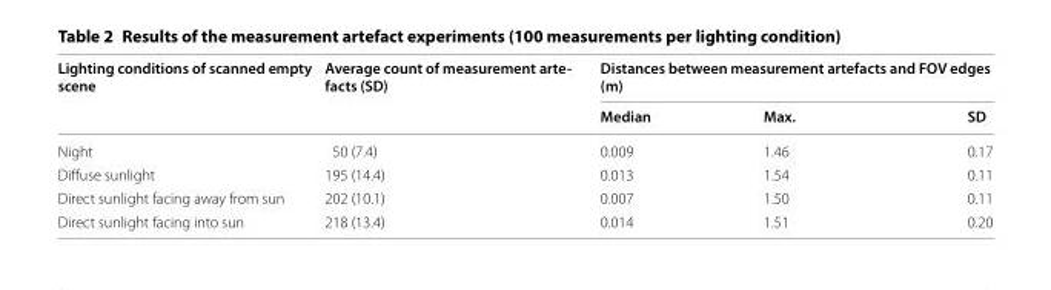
<table><thead><tr><td rowspan="2">Lighting conditions of scanned empty scene</td><td rowspan="2">Average count of measurement arte- facts (SD)</td><td colspan="3">Distances between measurement artefacts and FOV edges (m)</td></tr><tr><td>Median</td><td>Max.</td><td>SD</td></tr></thead><tbody><tr><td>Night</td><td>50 (7.4)</td><td>0.009</td><td>1.46</td><td>0.17</td></tr><tr><td>Diffuse sunlight</td><td>195 (14.4)</td><td>0.013</td><td>1.54</td><td>0.11</td></tr><tr><td>Direct sunlight facing away from sun</td><td>202 (10.1)</td><td>0.007</td><td>1.50</td><td>0.11</td></tr><tr><td>Direct sunlight facing into sun</td><td>218 (13.4)</td><td>0.014</td><td>1.51</td><td>0.20</td></tr></tbody></table>